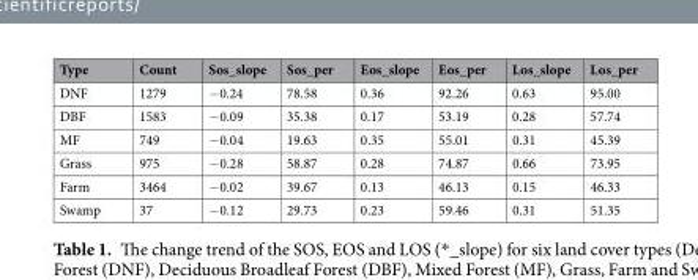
<table><thead><tr><td>Type</td><td>Count</td><td>Sos_slope</td><td>Sos_per</td><td>Eos_slope</td><td>Eos_per</td><td>Los_slope</td><td>Los_per</td></tr></thead><tbody><tr><td>DNF</td><td>1279</td><td>−0.24</td><td>78.58</td><td>0.36</td><td>92.26</td><td>0.63</td><td>95.00</td></tr><tr><td>DBF</td><td>1583</td><td>−0.09</td><td>35.38</td><td>0.17</td><td>53.19</td><td>0.28</td><td>57.74</td></tr><tr><td>MF</td><td>749</td><td>−0.04</td><td>19.63</td><td>0.35</td><td>55.01</td><td>0.31</td><td>45.39</td></tr><tr><td>Grass</td><td>975</td><td>−0.28</td><td>58.87</td><td>0.28</td><td>74.87</td><td>0.66</td><td>73.95</td></tr><tr><td>Farm</td><td>3464</td><td>−0.02</td><td>39.67</td><td>0.13</td><td>46.13</td><td>0.15</td><td>46.33</td></tr><tr><td>Swamp</td><td>37</td><td>−0.12</td><td>29.73</td><td>0.23</td><td>59.46</td><td>0.31</td><td>51.35</td></tr></tbody></table>